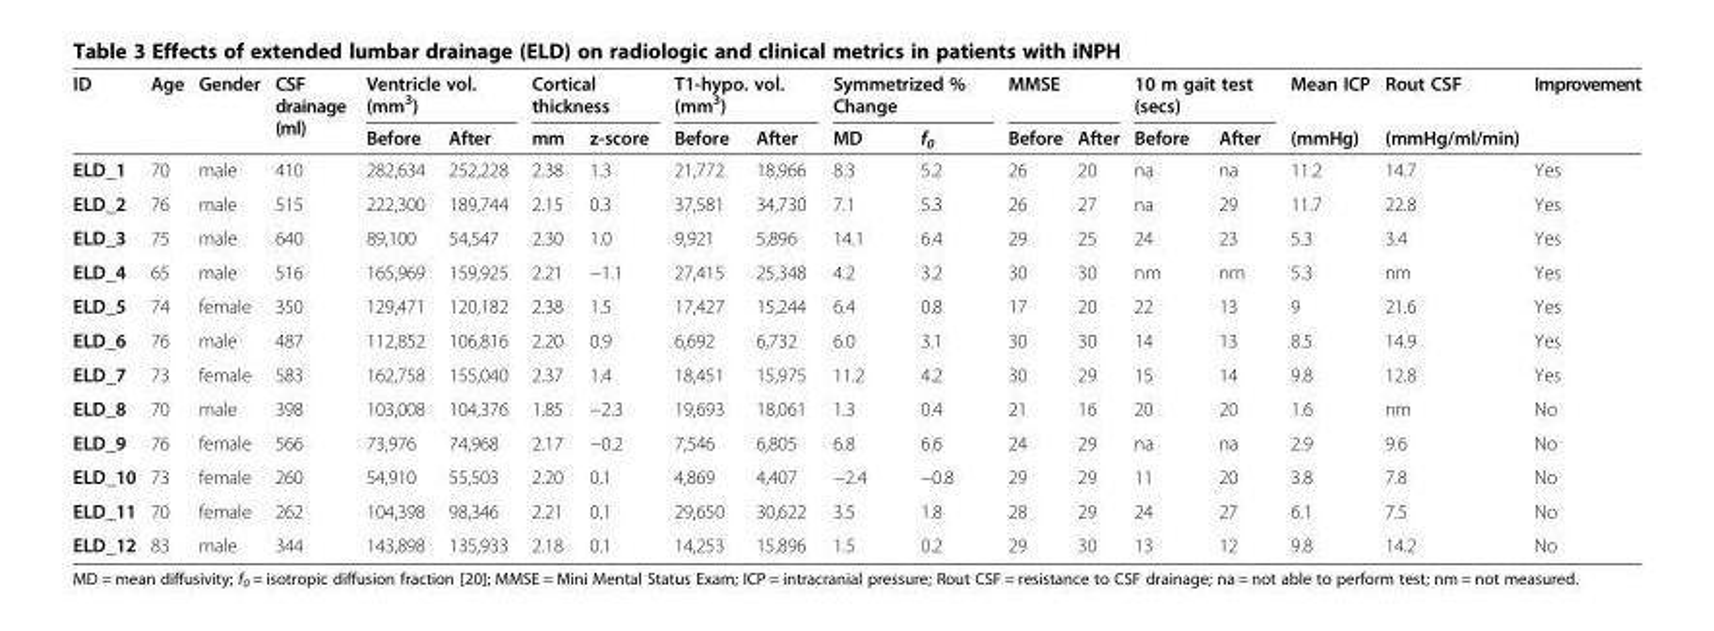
<table><thead><tr><td rowspan="2">ID</td><td rowspan="2">Age</td><td rowspan="2">Gender</td><td rowspan="2">CSF drainage (ml)</td><td colspan="2">Ventricle vol. (mm<sup>3</sup>)</td><td colspan="2">Cortical thickness</td><td colspan="2">T1-hypo. vol. (mm<sup>3</sup>)</td><td colspan="2">Symmetrized % Change</td><td colspan="2">MMSE</td><td colspan="2">10 m gait test (secs)</td><td rowspan="2">Mean ICP (mmHg)</td><td rowspan="2">Rout CSF (mmHg/ml/min)</td><td rowspan="2">Improvement</td></tr><tr><td>Before</td><td>After</td><td>mm</td><td>z-score</td><td>Before</td><td>After</td><td>MD</td><td>f<sub>0</sub></td><td>Before</td><td>After</td><td>Before</td><td>After</td></tr></thead><tbody><tr><td>ELD_1</td><td>70</td><td>male</td><td>410</td><td>282,634</td><td>252,228</td><td>2.38</td><td>1.3</td><td>21,772</td><td>18,966</td><td>8.3</td><td>5.2</td><td>26</td><td>20</td><td>na</td><td>na</td><td>11.2</td><td>14.7</td><td>Yes</td></tr><tr><td>ELD_2</td><td>76</td><td>male</td><td>515</td><td>222,300</td><td>189,744</td><td>2.15</td><td>0.3</td><td>37,581</td><td>34,730</td><td>7.1</td><td>5.3</td><td>26</td><td>27</td><td>na</td><td>29</td><td>11.7</td><td>22.8</td><td>Yes</td></tr><tr><td>ELD_3</td><td>75</td><td>male</td><td>640</td><td>89,100</td><td>54,547</td><td>2.30</td><td>1.0</td><td>9,921</td><td>5,896</td><td>14.1</td><td>6.4</td><td>29</td><td>25</td><td>24</td><td>23</td><td>5.3</td><td>3.4</td><td>Yes</td></tr><tr><td>ELD_4</td><td>65</td><td>male</td><td>516</td><td>165,969</td><td>159,925</td><td>2.21</td><td>−1.1</td><td>27,415</td><td>25,348</td><td>4.2</td><td>3.2</td><td>30</td><td>30</td><td>nm</td><td>nm</td><td>5.3</td><td>nm</td><td>Yes</td></tr><tr><td>ELD_5</td><td>74</td><td>female</td><td>350</td><td>129,471</td><td>120,182</td><td>2.38</td><td>1.5</td><td>17,427</td><td>15,244</td><td>6.4</td><td>0.8</td><td>17</td><td>20</td><td>22</td><td>13</td><td>9</td><td>21.6</td><td>Yes</td></tr><tr><td>ELD_6</td><td>76</td><td>male</td><td>487</td><td>112,852</td><td>106,816</td><td>2.20</td><td>0.9</td><td>6,692</td><td>6,732</td><td>6.0</td><td>3.1</td><td>30</td><td>30</td><td>14</td><td>13</td><td>8.5</td><td>14.9</td><td>Yes</td></tr><tr><td>ELD_7</td><td>73</td><td>female</td><td>583</td><td>162,758</td><td>155,040</td><td>2.37</td><td>1.4</td><td>18,451</td><td>15,975</td><td>11.2</td><td>4.2</td><td>30</td><td>29</td><td>15</td><td>14</td><td>9.8</td><td>12.8</td><td>Yes</td></tr><tr><td>ELD_8</td><td>70</td><td>male</td><td>398</td><td>103,008</td><td>104,376</td><td>1.85</td><td>−2.3</td><td>19,693</td><td>18,061</td><td>1.3</td><td>0.4</td><td>21</td><td>16</td><td>20</td><td>20</td><td>1.6</td><td>nm</td><td>No</td></tr><tr><td>ELD_9</td><td>76</td><td>female</td><td>566</td><td>73,976</td><td>74,968</td><td>2.17</td><td>−0.2</td><td>7,546</td><td>6,805</td><td>6.8</td><td>6.6</td><td>24</td><td>29</td><td>na</td><td>na</td><td>2.9</td><td>9.6</td><td>No</td></tr><tr><td>ELD_10</td><td>73</td><td>female</td><td>260</td><td>54,910</td><td>55,503</td><td>2.20</td><td>0.1</td><td>4,869</td><td>4,407</td><td>−2.4</td><td>−0.8</td><td>29</td><td>29</td><td>11</td><td>20</td><td>3.8</td><td>7.8</td><td>No</td></tr><tr><td>ELD_11</td><td>70</td><td>female</td><td>262</td><td>104,398</td><td>98,346</td><td>2.21</td><td>0.1</td><td>29,650</td><td>30,622</td><td>3.5</td><td>1.8</td><td>28</td><td>29</td><td>24</td><td>27</td><td>6.1</td><td>7.5</td><td>No</td></tr><tr><td>ELD_12</td><td>83</td><td>male</td><td>344</td><td>143,898</td><td>135,933</td><td>2.18</td><td>0.1</td><td>14,253</td><td>15,896</td><td>1.5</td><td>0.2</td><td>29</td><td>30</td><td>13</td><td>12</td><td>9.8</td><td>14.2</td><td>No</td></tr></tbody></table>